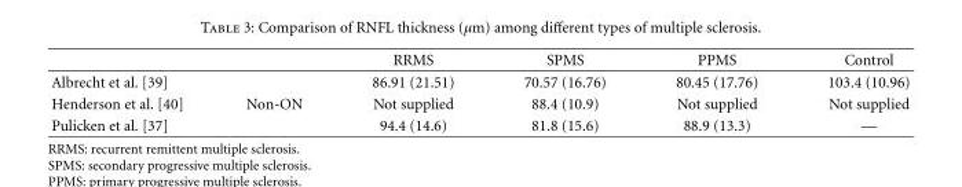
<table><thead><tr><td></td><td></td><td>RRMS</td><td>SPMS</td><td>PPMS</td><td>Control</td></tr></thead><tbody><tr><td>Albrecht et al. [39]</td><td></td><td>86.91 (21.51)</td><td>70.57 (16.76)</td><td>80.45 (17.76)</td><td>103.4 (10.96)</td></tr><tr><td>Henderson et al. [40]</td><td>Non-ON</td><td>Not supplied</td><td>88.4 (10.9)</td><td>Not supplied</td><td>Not supplied</td></tr><tr><td>Pulicken et al. [37]</td><td></td><td>94.4 (14.6)</td><td>81.8 (15.6)</td><td>88.9 (13.3)</td><td>—</td></tr></tbody></table>